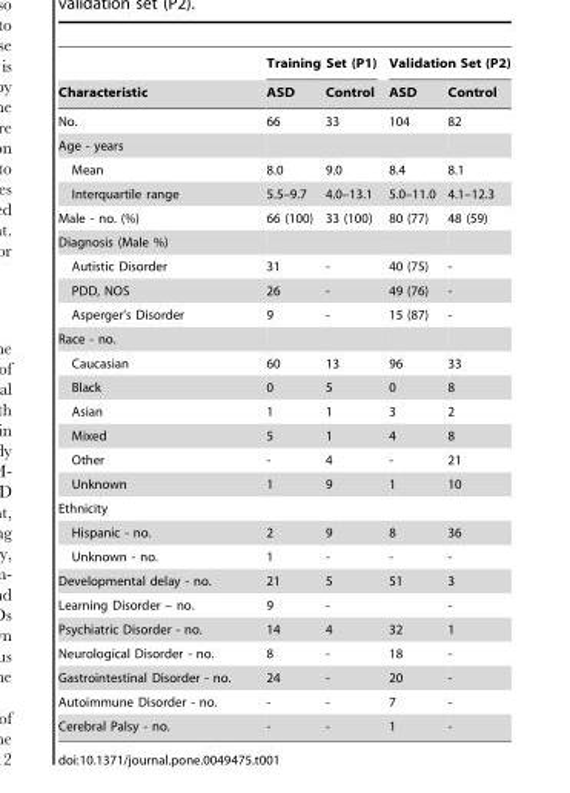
<table><thead><tr><td rowspan="2">Characteristic</td><td colspan="2">Training Set (P1)</td><td colspan="2">Validation Set (P2)</td></tr><tr><td>ASD</td><td>Control</td><td>ASD</td><td>Control</td></tr></thead><tbody><tr><td>No.</td><td>66</td><td>33</td><td>104</td><td>82</td></tr><tr><td colspan="5">Age - years</td></tr><tr><td>Mean</td><td>8.0</td><td>9.0</td><td>8.4</td><td>8.1</td></tr><tr><td>Interquartile range</td><td>5.5–9.7</td><td>4.0–13.1</td><td>5.0–11.0</td><td>4.1–12.3</td></tr><tr><td>Male - no. (%)</td><td>66 (100)</td><td>33 (100)</td><td>80 (77)</td><td>48 (59)</td></tr><tr><td colspan="5">Diagnosis (Male %)</td></tr><tr><td>Autistic Disorder</td><td>31</td><td>-</td><td>40 (75)</td><td>-</td></tr><tr><td>PDD, NOS</td><td>26</td><td>-</td><td>49 (76)</td><td>-</td></tr><tr><td>Asperger’s Disorder</td><td>9</td><td>-</td><td>15 (87)</td><td>-</td></tr><tr><td colspan="5">Race - no.</td></tr><tr><td>Caucasian</td><td>60</td><td>13</td><td>96</td><td>33</td></tr><tr><td>Black</td><td>0</td><td>5</td><td>0</td><td>8</td></tr><tr><td>Asian</td><td>1</td><td>1</td><td>3</td><td>2</td></tr><tr><td>Mixed</td><td>5</td><td>1</td><td>4</td><td>8</td></tr><tr><td>Other</td><td>-</td><td>4</td><td>-</td><td>21</td></tr><tr><td>Unknown</td><td>1</td><td>9</td><td>1</td><td>10</td></tr><tr><td colspan="5">Ethnicity</td></tr><tr><td>Hispanic - no.</td><td>2</td><td>9</td><td>8</td><td>36</td></tr><tr><td>Unknown - no.</td><td>1</td><td>-</td><td>-</td><td>-</td></tr><tr><td>Developmental delay - no.</td><td>21</td><td>5</td><td>51</td><td>3</td></tr><tr><td>Learning Disorder – no.</td><td>9</td><td>-</td><td></td><td>-</td></tr><tr><td>Psychiatric Disorder - no.</td><td>14</td><td>4</td><td>32</td><td>1</td></tr><tr><td>Neurological Disorder - no.</td><td>8</td><td>-</td><td>18</td><td>-</td></tr><tr><td>Gastrointestinal Disorder - no.</td><td>24</td><td>-</td><td>20</td><td>-</td></tr><tr><td>Autoimmune Disorder - no.</td><td>-</td><td>-</td><td>7</td><td>-</td></tr><tr><td>Cerebral Palsy - no.</td><td>-</td><td>-</td><td>1</td><td>-</td></tr></tbody></table>